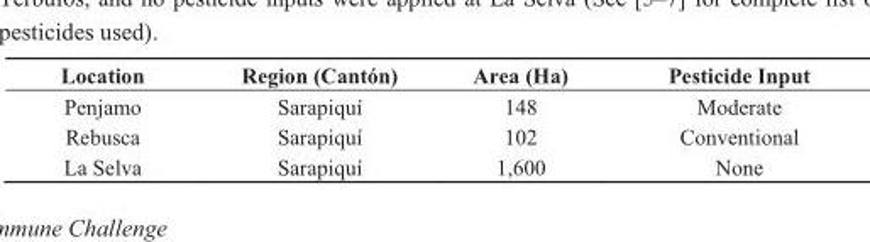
<table><thead><tr><td>Location</td><td>Region (Cantón)</td><td>Area (Ha)</td><td>Pesticide Input</td></tr></thead><tbody><tr><td>Penjamo</td><td>Sarapiquí</td><td>148</td><td>Moderate</td></tr><tr><td>Rebusca</td><td>Sarapiquí</td><td>102</td><td>Conventional</td></tr><tr><td>La Selva</td><td>Sarapiquí</td><td>1,600</td><td>None</td></tr></tbody></table>